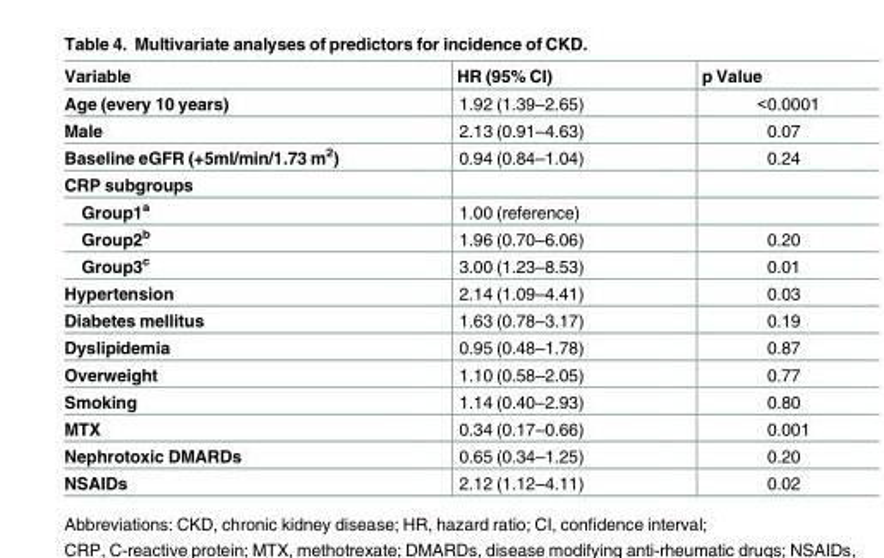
<table><thead><tr><td>Variable</td><td>HR (95% CI)</td><td>p Value</td></tr></thead><tbody><tr><td>Age (every 10 years)</td><td>1.92 (1.39–2.65)</td><td>&lt;0.0001</td></tr><tr><td>Male</td><td>2.13 (0.91–4.63)</td><td>0.07</td></tr><tr><td>Baseline eGFR (+5ml/min/1.73 m<sup>2</sup>)</td><td>0.94 (0.84–1.04)</td><td>0.24</td></tr><tr><td colspan="3">CRP subgroups</td></tr><tr><td>Group1<sup>a</sup></td><td>1.00 (reference)</td><td></td></tr><tr><td>Group2<sup>b</sup></td><td>1.96 (0.70–6.06)</td><td>0.20</td></tr><tr><td>Group3<sup>c</sup></td><td>3.00 (1.23–8.53)</td><td>0.01</td></tr><tr><td>Hypertension</td><td>2.14 (1.09–4.41)</td><td>0.03</td></tr><tr><td>Diabetes mellitus</td><td>1.63 (0.78–3.17)</td><td>0.19</td></tr><tr><td>Dyslipidemia</td><td>0.95 (0.48–1.78)</td><td>0.87</td></tr><tr><td>Overweight</td><td>1.10 (0.58–2.05)</td><td>0.77</td></tr><tr><td>Smoking</td><td>1.14 (0.40–2.93)</td><td>0.80</td></tr><tr><td>MTX</td><td>0.34 (0.17–0.66)</td><td>0.001</td></tr><tr><td>Nephrotoxic DMARDs</td><td>0.65 (0.34–1.25)</td><td>0.20</td></tr><tr><td>NSAIDs</td><td>2.12 (1.12–4.11)</td><td>0.02</td></tr></tbody></table>